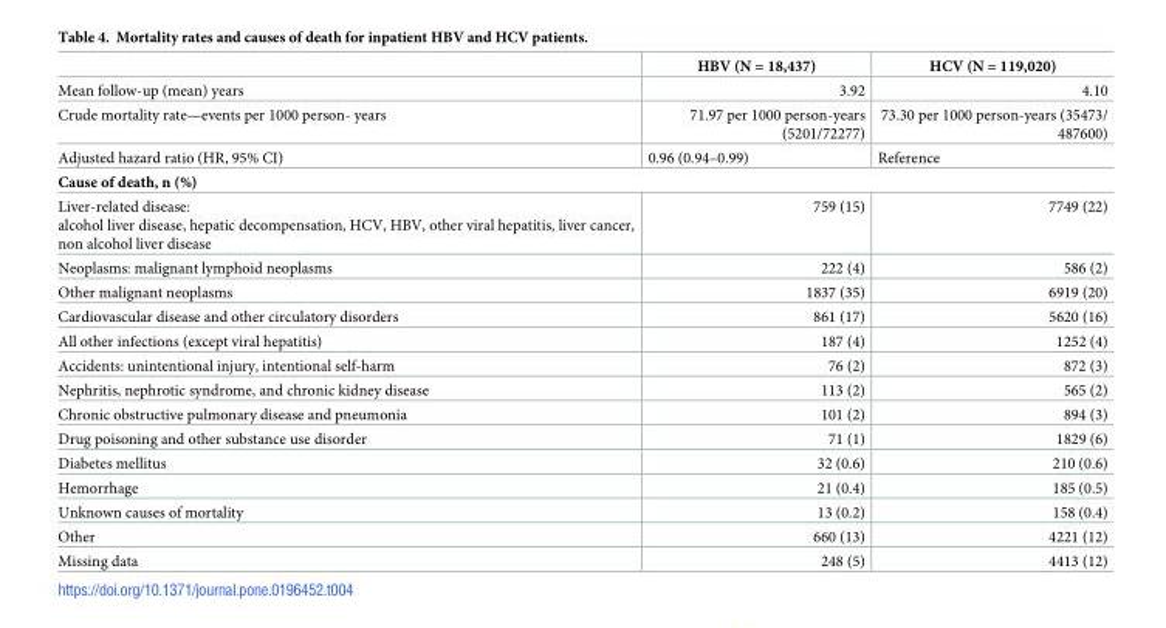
<table><thead><tr><td></td><td>HBV (N = 18,437)</td><td>HCV (N = 119,020)</td></tr></thead><tbody><tr><td>Mean follow-up (mean) years</td><td>3.92</td><td>4.10</td></tr><tr><td>Crude mortality rate—events per 1000 person- years</td><td>71.97 per 1000 person-years (5201/72277)</td><td>73.30 per 1000 person-years (35473/ 487600)</td></tr><tr><td>Adjusted hazard ratio (HR, 95% CI)</td><td>0.96 (0.94–0.99)</td><td>Reference</td></tr><tr><td colspan="3">Cause of death, n (%)</td></tr><tr><td>Liver-related disease: alcohol liver disease, hepatic decompensation, HCV, HBV, other viral hepatitis, liver cancer, non alcohol liver disease</td><td>759 (15)</td><td>7749 (22)</td></tr><tr><td>Neoplasms: malignant lymphoid neoplasms</td><td>222 (4)</td><td>586 (2)</td></tr><tr><td>Other malignant neoplasms</td><td>1837 (35)</td><td>6919 (20)</td></tr><tr><td>Cardiovascular disease and other circulatory disorders</td><td>861 (17)</td><td>5620 (16)</td></tr><tr><td>All other infections (except viral hepatitis)</td><td>187 (4)</td><td>1252 (4)</td></tr><tr><td>Accidents: unintentional injury, intentional self-harm</td><td>76 (2)</td><td>872 (3)</td></tr><tr><td>Nephritis, nephrotic syndrome, and chronic kidney disease</td><td>113 (2)</td><td>565 (2)</td></tr><tr><td>Chronic obstructive pulmonary disease and pneumonia</td><td>101 (2)</td><td>894 (3)</td></tr><tr><td>Drug poisoning and other substance use disorder</td><td>71 (1)</td><td>1829 (6)</td></tr><tr><td>Diabetes mellitus</td><td>32 (0.6)</td><td>210 (0.6)</td></tr><tr><td>Hemorrhage</td><td>21 (0.4)</td><td>185 (0.5)</td></tr><tr><td>Unknown causes of mortality</td><td>13 (0.2)</td><td>158 (0.4)</td></tr><tr><td>Other</td><td>660 (13)</td><td>4221 (12)</td></tr><tr><td>Missing data</td><td>248 (5)</td><td>4413 (12)</td></tr></tbody></table>